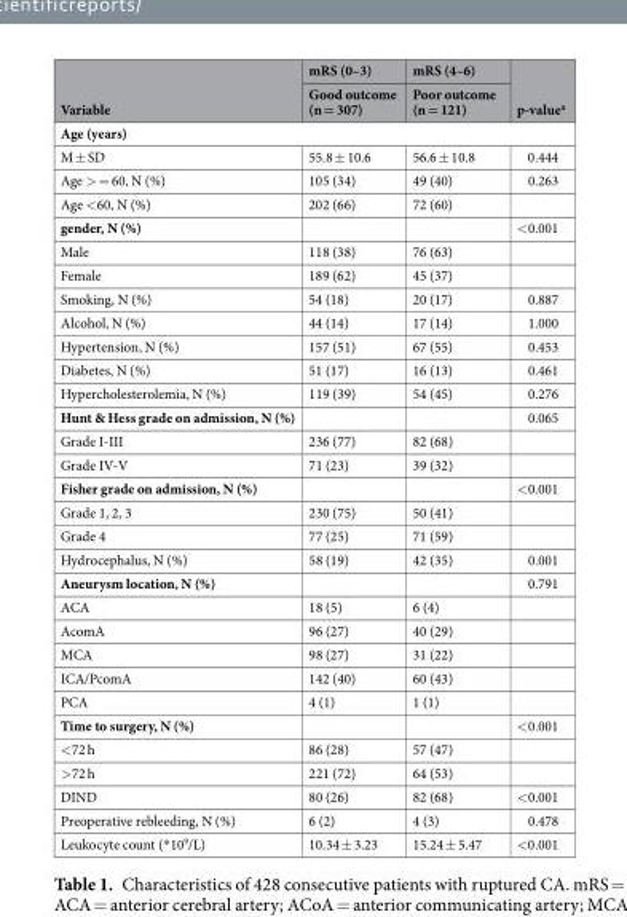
<table><thead><tr><td rowspan="2">Variable</td><td rowspan="2">mRS (0–3) Good outcome (n = 307)</td><td rowspan="2">mRS (4–6) Poor outcome (n = 121)</td><td rowspan="2">p-value<sup>a</sup></td></tr><tr></tr></thead><tbody><tr><td colspan="4">Age (years)</td></tr><tr><td>M ± SD</td><td>55.8 ± 10.6</td><td>56.6 ± 10.8</td><td>0.444</td></tr><tr><td>Age &gt; = 60, N (%)</td><td>105 (34)</td><td>49 (40)</td><td>0.263</td></tr><tr><td>Age &lt;60, N (%)</td><td>202 (66)</td><td>72 (60)</td><td></td></tr><tr><td>gender, N (%)</td><td></td><td></td><td>&lt;0.001</td></tr><tr><td>Male</td><td>118 (38)</td><td>76 (63)</td><td></td></tr><tr><td>Female</td><td>189 (62)</td><td>45 (37)</td><td></td></tr><tr><td>Smoking, N (%)</td><td>54 (18)</td><td>20 (17)</td><td>0.887</td></tr><tr><td>Alcohol, N (%)</td><td>44 (14)</td><td>17 (14)</td><td>1.000</td></tr><tr><td>Hypertension, N (%)</td><td>157 (51)</td><td>67 (55)</td><td>0.453</td></tr><tr><td>Diabetes, N (%)</td><td>51 (17)</td><td>16 (13)</td><td>0.461</td></tr><tr><td>Hypercholesterolemia, N (%)</td><td>119 (39)</td><td>54 (45)</td><td>0.276</td></tr><tr><td>Hunt &amp; Hess grade on admission, N (%)</td><td></td><td></td><td>0.065</td></tr><tr><td>Grade I-III</td><td>236 (77)</td><td>82 (68)</td><td></td></tr><tr><td>Grade IV-V</td><td>71 (23)</td><td>39 (32)</td><td></td></tr><tr><td>Fisher grade on admission, N (%)</td><td></td><td></td><td>&lt;0.001</td></tr><tr><td>Grade 1, 2, 3</td><td>230 (75)</td><td>50 (41)</td><td></td></tr><tr><td>Grade 4</td><td>77 (25)</td><td>71 (59)</td><td></td></tr><tr><td>Hydrocephalus, N (%)</td><td>58 (19)</td><td>42 (35)</td><td>0.001</td></tr><tr><td>Aneurysm location, N (%)</td><td></td><td></td><td>0.791</td></tr><tr><td>ACA</td><td>18 (5)</td><td>6 (4)</td><td></td></tr><tr><td>AcomA</td><td>96 (27)</td><td>40 (29)</td><td></td></tr><tr><td>MCA</td><td>98 (27)</td><td>31 (22)</td><td></td></tr><tr><td>ICA/PcomA</td><td>142 (40)</td><td>60 (43)</td><td></td></tr><tr><td>PCA</td><td>4 (1)</td><td>1 (1)</td><td></td></tr><tr><td>Time to surgery, N (%)</td><td></td><td></td><td>&lt;0.001</td></tr><tr><td>&lt;72 h</td><td>86 (28)</td><td>57 (47)</td><td></td></tr><tr><td>&gt;72 h</td><td>221 (72)</td><td>64 (53)</td><td></td></tr><tr><td>DIND</td><td>80 (26)</td><td>82 (68)</td><td>&lt;0.001</td></tr><tr><td>Preoperative rebleeding, N (%)</td><td>6 (2)</td><td>4 (3)</td><td>0.478</td></tr><tr><td>Leukocyte count (*10<sup>9</sup>/L)</td><td>10.34 ± 3.23</td><td>15.24 ± 5.47</td><td>&lt;0.001</td></tr></tbody></table>